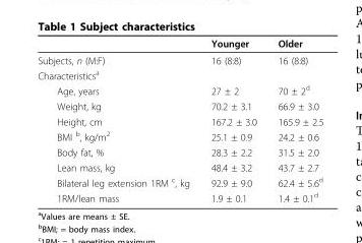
<table><thead><tr><td></td><td>Younger</td><td>Older</td></tr></thead><tbody><tr><td>Subjects, n (M:F)</td><td>16 (8:8)</td><td>16 (8:8)</td></tr><tr><td colspan="3">Characteristics<sup>a</sup></td></tr><tr><td>Age, years</td><td>27 ± 2</td><td>70 ± 2<sup>d</sup></td></tr><tr><td>Weight, kg</td><td>70.2 ± 3.1</td><td>66.9 ± 3.0</td></tr><tr><td>Height, cm</td><td>167.2 ± 3.0</td><td>165.9 ± 2.5</td></tr><tr><td>BMI <sup>b</sup>, kg/m<sup>2</sup></td><td>25.1 ± 0.9</td><td>24.2 ± 0.6</td></tr><tr><td>Body fat, %</td><td>28.3 ± 2.2</td><td>31.5 ± 2.0</td></tr><tr><td>Lean mass, kg</td><td>48.4 ± 3.2</td><td>43.7 ± 2.7</td></tr><tr><td>Bilateral leg extension 1RM <sup>c</sup>, kg</td><td>92.9 ± 9.0</td><td>62.4 ± 5.6<sup>d</sup></td></tr><tr><td>1RM/lean mass</td><td>1.9 ± 0.1</td><td>1.4 ± 0.1<sup>d</sup></td></tr></tbody></table>